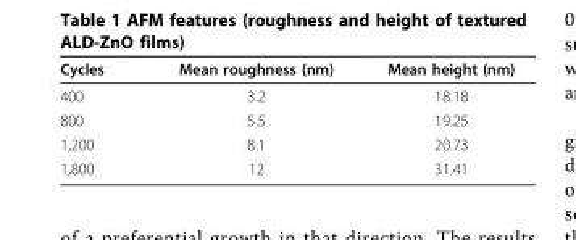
<table><thead><tr><td>Cycles</td><td>Mean roughness (nm)</td><td>Mean height (nm)</td></tr></thead><tbody><tr><td>400</td><td>3.2</td><td>18.18</td></tr><tr><td>800</td><td>5.5</td><td>19.25</td></tr><tr><td>1,200</td><td>8.1</td><td>20.73</td></tr><tr><td>1,800</td><td>12</td><td>31.41</td></tr></tbody></table>